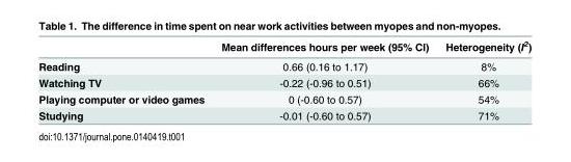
<table><thead><tr><td></td><td>Mean differences hours per week (95% CI)</td><td>Heterogeneity (I<sup>2</sup>)</td></tr></thead><tbody><tr><td>Reading</td><td>0.66 (0.16 to 1.17)</td><td>8%</td></tr><tr><td>Watching TV</td><td>-0.22 (-0.96 to 0.51)</td><td>66%</td></tr><tr><td>Playing computer or video games</td><td>0 (-0.60 to 0.57)</td><td>54%</td></tr><tr><td>Studying</td><td>-0.01 (-0.60 to 0.57)</td><td>71%</td></tr></tbody></table>